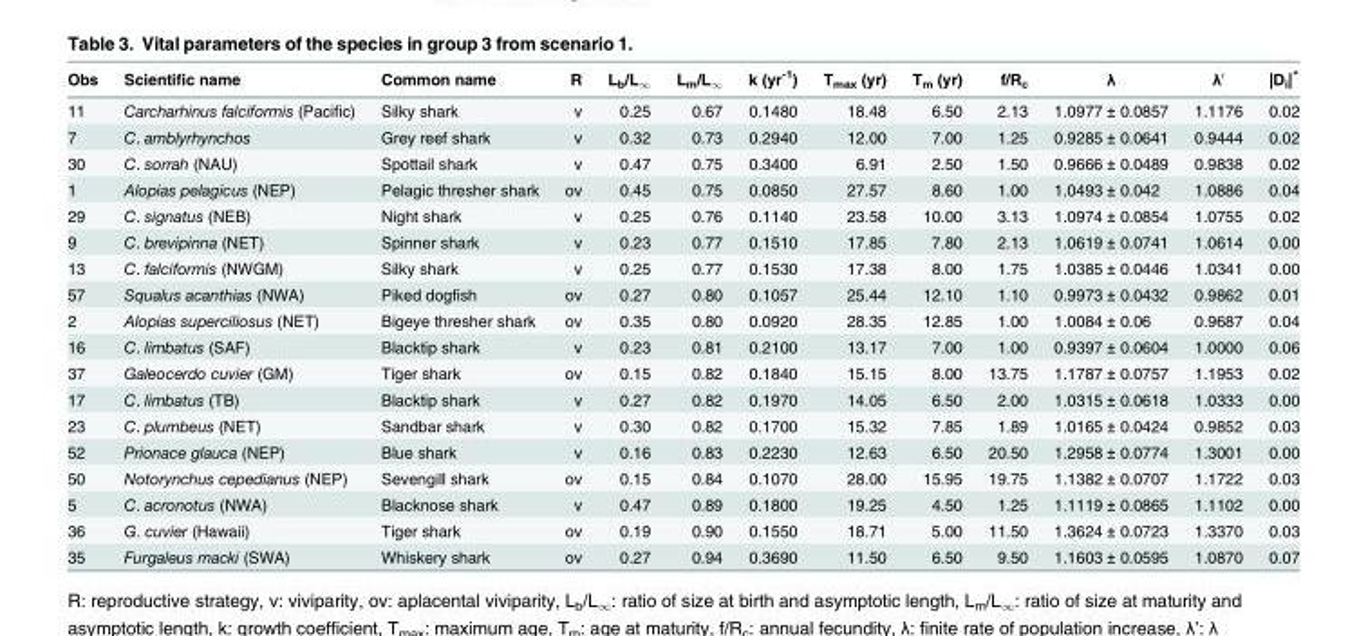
<table><thead><tr><td>Obs</td><td>Scientific name</td><td>Common name</td><td>R</td><td>L<sub>b</sub>/L<sub>∞</sub></td><td>L<sub>m</sub>/L<sub>∞</sub></td><td>k (yr<sup>-1</sup>)</td><td>T<sub>max</sub> (yr)</td><td>T<sub>m</sub> (yr)</td><td>f/R<sub>c</sub></td><td>λ</td><td>λ′</td><td>|D<sub>i</sub>|*</td></tr></thead><tbody><tr><td>11</td><td>Carcharhinus falciformis (Pacific)</td><td>Silky shark</td><td>v</td><td>0.25</td><td>0.67</td><td>0.1480</td><td>18.48</td><td>6.50</td><td>2.13</td><td>1.0977 ± 0.0857</td><td>1.1176</td><td>0.02</td></tr><tr><td>7</td><td>C. amblyrhynchos</td><td>Grey reef shark</td><td>v</td><td>0.32</td><td>0.73</td><td>0.2940</td><td>12.00</td><td>7.00</td><td>1.25</td><td>0.9285 ± 0.0641</td><td>0.9444</td><td>0.02</td></tr><tr><td>30</td><td>C. sorrah (NAU)</td><td>Spottail shark</td><td>v</td><td>0.47</td><td>0.75</td><td>0.3400</td><td>6.91</td><td>2.50</td><td>1.50</td><td>0.9666 ± 0.0489</td><td>0.9838</td><td>0.02</td></tr><tr><td>1</td><td>Alopias pelagicus (NEP)</td><td>Pelagic thresher shark</td><td>ov</td><td>0.45</td><td>0.75</td><td>0.0850</td><td>27.57</td><td>8.60</td><td>1.00</td><td>1.0493 ± 0.042</td><td>1.0886</td><td>0.04</td></tr><tr><td>29</td><td>C. signatus (NEB)</td><td>Night shark</td><td>v</td><td>0.25</td><td>0.76</td><td>0.1140</td><td>23.58</td><td>10.00</td><td>3.13</td><td>1.0974 ± 0.0854</td><td>1.0755</td><td>0.02</td></tr><tr><td>9</td><td>C. brevipinna (NET)</td><td>Spinner shark</td><td>v</td><td>0.23</td><td>0.77</td><td>0.1510</td><td>17.85</td><td>7.80</td><td>2.13</td><td>1.0619 ± 0.0741</td><td>1.0614</td><td>0.00</td></tr><tr><td>13</td><td>C. falciformis (NWGM)</td><td>Silky shark</td><td>v</td><td>0.25</td><td>0.77</td><td>0.1530</td><td>17.38</td><td>8.00</td><td>1.75</td><td>1.0385 ± 0.0446</td><td>1.0341</td><td>0.00</td></tr><tr><td>57</td><td>Squalus acanthias (NWA)</td><td>Piked dogfish</td><td>ov</td><td>0.27</td><td>0.80</td><td>0.1057</td><td>25.44</td><td>12.10</td><td>1.10</td><td>0.9973 ± 0.0432</td><td>0.9862</td><td>0.01</td></tr><tr><td>2</td><td>Alopias superciliosus (NET)</td><td>Bigeye thresher shark</td><td>ov</td><td>0.35</td><td>0.80</td><td>0.0920</td><td>28.35</td><td>12.85</td><td>1.00</td><td>1.0084 ± 0.06</td><td>0.9687</td><td>0.04</td></tr><tr><td>16</td><td>C. limbatus (SAF)</td><td>Blacktip shark</td><td>v</td><td>0.23</td><td>0.81</td><td>0.2100</td><td>13.17</td><td>7.00</td><td>1.00</td><td>0.9397 ± 0.0604</td><td>1.0000</td><td>0.06</td></tr><tr><td>37</td><td>Galeocerdo cuvier (GM)</td><td>Tiger shark</td><td>ov</td><td>0.15</td><td>0.82</td><td>0.1840</td><td>15.15</td><td>8.00</td><td>13.75</td><td>1.1787 ± 0.0757</td><td>1.1953</td><td>0.02</td></tr><tr><td>17</td><td>C. limbatus (TB)</td><td>Blacktip shark</td><td>v</td><td>0.27</td><td>0.82</td><td>0.1970</td><td>14.05</td><td>6.50</td><td>2.00</td><td>1.0315 ± 0.0618</td><td>1.0333</td><td>0.00</td></tr><tr><td>23</td><td>C. plumbeus (NET)</td><td>Sandbar shark</td><td>v</td><td>0.30</td><td>0.82</td><td>0.1700</td><td>15.32</td><td>7.85</td><td>1.89</td><td>1.0165 ± 0.0424</td><td>0.9852</td><td>0.03</td></tr><tr><td>52</td><td>Prionace glauca (NEP)</td><td>Blue shark</td><td>v</td><td>0.16</td><td>0.83</td><td>0.2230</td><td>12.63</td><td>6.50</td><td>20.50</td><td>1.2958 ± 0.0774</td><td>1.3001</td><td>0.00</td></tr><tr><td>50</td><td>Notorynchus cepedianus (NEP)</td><td>Sevengill shark</td><td>ov</td><td>0.15</td><td>0.84</td><td>0.1070</td><td>28.00</td><td>15.95</td><td>19.75</td><td>1.1382 ± 0.0707</td><td>1.1722</td><td>0.03</td></tr><tr><td>5</td><td>C. acronotus (NWA)</td><td>Blacknose shark</td><td>v</td><td>0.47</td><td>0.89</td><td>0.1800</td><td>19.25</td><td>4.50</td><td>1.25</td><td>1.1119 ± 0.0865</td><td>1.1102</td><td>0.00</td></tr><tr><td>36</td><td>G. cuvier (Hawaii)</td><td>Tiger shark</td><td>ov</td><td>0.19</td><td>0.90</td><td>0.1550</td><td>18.71</td><td>5.00</td><td>11.50</td><td>1.3624 ± 0.0723</td><td>1.3370</td><td>0.03</td></tr><tr><td>35</td><td>Furgaleus macki (SWA)</td><td>Whiskery shark</td><td>ov</td><td>0.27</td><td>0.94</td><td>0.3690</td><td>11.50</td><td>6.50</td><td>9.50</td><td>1.1603 ± 0.0595</td><td>1.0870</td><td>0.07</td></tr></tbody></table>